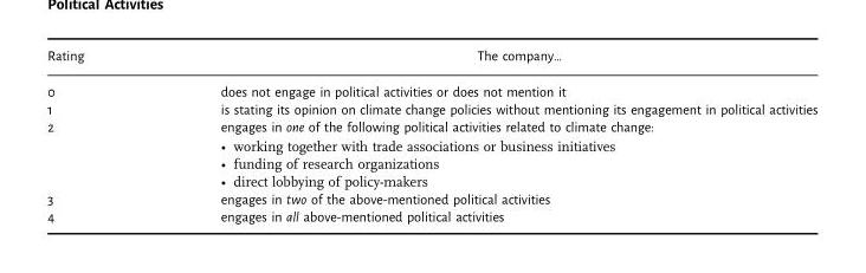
<table><thead><tr><td>Rating</td><td>The company…</td></tr></thead><tbody><tr><td>0</td><td>does not engage in political activities or does not mention it</td></tr><tr><td>1</td><td>is stating its opinion on climate change policies without mentioning its engagement in political activities</td></tr><tr><td>2</td><td>engages in one of the following political activities related to climate change: • working together with trade associations or business initiatives • funding of research organizations • direct lobbying of policy-makers</td></tr><tr><td>3</td><td>engages in two of the above-mentioned political activities</td></tr><tr><td>4</td><td>engages in all above-mentioned political activities</td></tr></tbody></table>